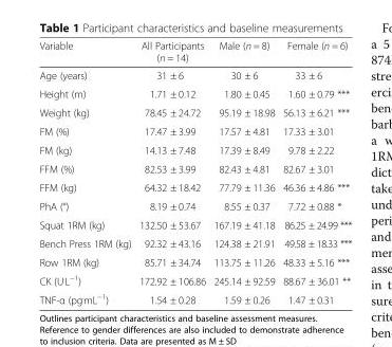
<table><thead><tr><td>Variable</td><td>All Participants (n = 14)</td><td>Male (n = 8)</td><td>Female (n = 6)</td></tr></thead><tbody><tr><td>Age (years)</td><td>31 ± 6</td><td>30 ± 6</td><td>33 ± 6</td></tr><tr><td>Height (m)</td><td>1.71 ± 0.12</td><td>1.80 ± 0.45</td><td>1.60 ± 0.79 ***</td></tr><tr><td>Weight (kg)</td><td>78.45 ± 24.72</td><td>95.19 ± 18.98</td><td>56.13 ± 6.21 ***</td></tr><tr><td>FM (%)</td><td>17.47 ± 3.99</td><td>17.57 ± 4.81</td><td>17.33 ± 3.01</td></tr><tr><td>FM (kg)</td><td>14.13 ± 7.48</td><td>17.39 ± 8.49</td><td>9.78 ± 2.22</td></tr><tr><td>FFM (%)</td><td>82.53 ± 3.99</td><td>82.43 ± 4.81</td><td>82.67 ± 3.01</td></tr><tr><td>FFM (kg)</td><td>64.32 ± 18.42</td><td>77.79 ± 11.36</td><td>46.36 ± 4.86 ***</td></tr><tr><td>PhA (°)</td><td>8.19 ± 0.74</td><td>8.55 ± 0.37</td><td>7.72 ± 0.88 *</td></tr><tr><td>Squat 1RM (kg)</td><td>132.50 ± 53.67</td><td>167.19 ± 41.18</td><td>86.25 ± 24.99 ***</td></tr><tr><td>Bench Press 1RM (kg)</td><td>92.32 ± 43.16</td><td>124.38 ± 21.91</td><td>49.58 ± 18.33 ***</td></tr><tr><td>Row 1RM (kg)</td><td>85.71 ± 34.74</td><td>113.75 ± 11.26</td><td>48.33 ± 5.16 ***</td></tr><tr><td>CK (U<sup>.</sup>L<sup>−1</sup>)</td><td>172.92 ± 106.86</td><td>245.14 ± 92.59</td><td>88.67 ± 36.01 **</td></tr><tr><td>TNF-α (pg<sup>.</sup>mL<sup>−1</sup>)</td><td>1.54 ± 0.28</td><td>1.59 ± 0.26</td><td>1.47 ± 0.31</td></tr></tbody></table>